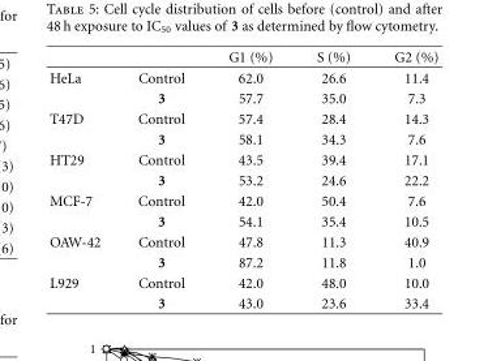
<table><thead><tr><td></td><td></td><td>G1 (%)</td><td>S (%)</td><td>G2 (%)</td></tr></thead><tbody><tr><td rowspan="2">HeLa</td><td>Control</td><td>62.0</td><td>26.6</td><td>11.4</td></tr><tr><td>3</td><td>57.7</td><td>35.0</td><td>7.3</td></tr><tr><td rowspan="2">T47D</td><td>Control</td><td>57.4</td><td>28.4</td><td>14.3</td></tr><tr><td>3</td><td>58.1</td><td>34.3</td><td>7.6</td></tr><tr><td rowspan="2">HT29</td><td>Control</td><td>43.5</td><td>39.4</td><td>17.1</td></tr><tr><td>3</td><td>53.2</td><td>24.6</td><td>22.2</td></tr><tr><td rowspan="2">MCF-7</td><td>Control</td><td>42.0</td><td>50.4</td><td>7.6</td></tr><tr><td>3</td><td>54.1</td><td>35.4</td><td>10.5</td></tr><tr><td rowspan="2">OAW-42</td><td>Control</td><td>47.8</td><td>11.3</td><td>40.9</td></tr><tr><td>3</td><td>87.2</td><td>11.8</td><td>1.0</td></tr><tr><td rowspan="2">L929</td><td>Control</td><td>42.0</td><td>48.0</td><td>10.0</td></tr><tr><td>3</td><td>43.0</td><td>23.6</td><td>33.4</td></tr></tbody></table>